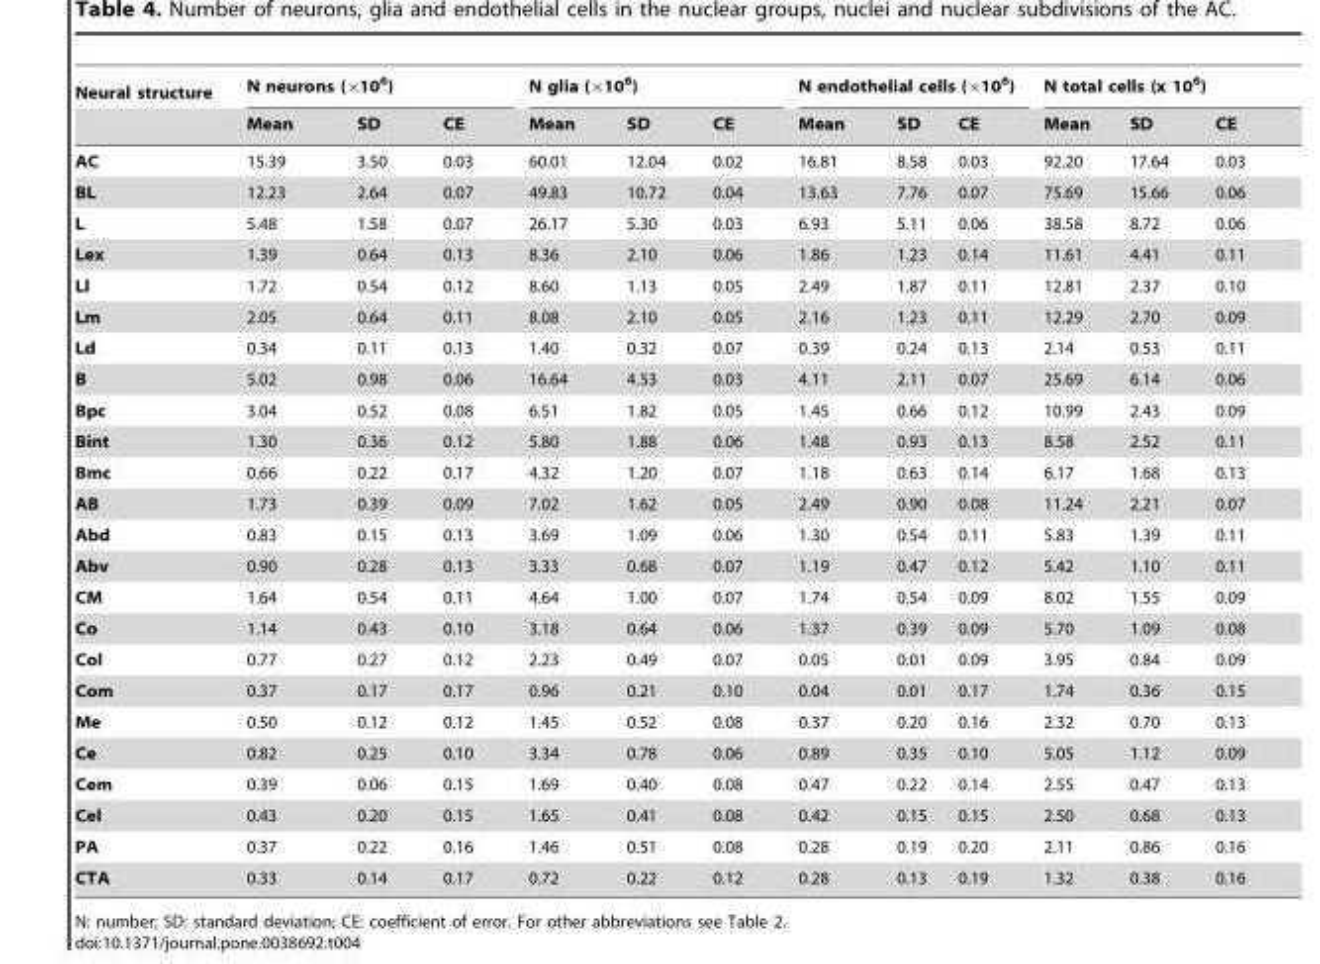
<table><thead><tr><td rowspan="2">Neural structure</td><td colspan="3">N neurons (×10<sup>6</sup>)</td><td colspan="3">N glia (×10<sup>6</sup>)</td><td colspan="3">N endothelial cells (×10<sup>6</sup>)</td><td colspan="3">N total cells (x 10<sup>6</sup>)</td></tr><tr><td>Mean</td><td>SD</td><td>CE</td><td>Mean</td><td>SD</td><td>CE</td><td>Mean</td><td>SD</td><td>CE</td><td>Mean</td><td>SD</td><td>CE</td></tr></thead><tbody><tr><td>AC</td><td>15.39</td><td>3.50</td><td>0.03</td><td>60.01</td><td>12.04</td><td>0.02</td><td>16.81</td><td>8.58</td><td>0.03</td><td>92.20</td><td>17.64</td><td>0.03</td></tr><tr><td>BL</td><td>12.23</td><td>2.64</td><td>0.07</td><td>49.83</td><td>10.72</td><td>0.04</td><td>13.63</td><td>7.76</td><td>0.07</td><td>75.69</td><td>15.66</td><td>0.06</td></tr><tr><td>L</td><td>5.48</td><td>1.58</td><td>0.07</td><td>26.17</td><td>5.30</td><td>0.03</td><td>6.93</td><td>5.11</td><td>0.06</td><td>38.58</td><td>8.72</td><td>0.06</td></tr><tr><td>Lex</td><td>1.39</td><td>0.64</td><td>0.13</td><td>8.36</td><td>2.10</td><td>0.06</td><td>1.86</td><td>1.23</td><td>0.14</td><td>11.61</td><td>4.41</td><td>0.11</td></tr><tr><td>Ll</td><td>1.72</td><td>0.54</td><td>0.12</td><td>8.60</td><td>1.13</td><td>0.05</td><td>2.49</td><td>1.87</td><td>0.11</td><td>12.81</td><td>2.37</td><td>0.10</td></tr><tr><td>Lm</td><td>2.05</td><td>0.64</td><td>0.11</td><td>8.08</td><td>2.10</td><td>0.05</td><td>2.16</td><td>1.23</td><td>0.11</td><td>12.29</td><td>2.70</td><td>0.09</td></tr><tr><td>Ld</td><td>0.34</td><td>0.11</td><td>0.13</td><td>1.40</td><td>0.32</td><td>0.07</td><td>0.39</td><td>0.24</td><td>0.13</td><td>2.14</td><td>0.53</td><td>0.11</td></tr><tr><td>B</td><td>5.02</td><td>0.98</td><td>0.06</td><td>16.64</td><td>4.53</td><td>0.03</td><td>4.11</td><td>2.11</td><td>0.07</td><td>25.69</td><td>6.14</td><td>0.06</td></tr><tr><td>Bpc</td><td>3.04</td><td>0.52</td><td>0.08</td><td>6.51</td><td>1.82</td><td>0.05</td><td>1.45</td><td>0.66</td><td>0.12</td><td>10.99</td><td>2.43</td><td>0.09</td></tr><tr><td>Bint</td><td>1.30</td><td>0.36</td><td>0.12</td><td>5.80</td><td>1.88</td><td>0.06</td><td>1.48</td><td>0.93</td><td>0.13</td><td>8.58</td><td>2.52</td><td>0.11</td></tr><tr><td>Bmc</td><td>0.66</td><td>0.22</td><td>0.17</td><td>4.32</td><td>1.20</td><td>0.07</td><td>1.18</td><td>0.63</td><td>0.14</td><td>6.17</td><td>1.68</td><td>0.13</td></tr><tr><td>AB</td><td>1.73</td><td>0.39</td><td>0.09</td><td>7.02</td><td>1.62</td><td>0.05</td><td>2.49</td><td>0.90</td><td>0.08</td><td>11.24</td><td>2.21</td><td>0.07</td></tr><tr><td>Abd</td><td>0.83</td><td>0.15</td><td>0.13</td><td>3.69</td><td>1.09</td><td>0.06</td><td>1.30</td><td>0.54</td><td>0.11</td><td>5.83</td><td>1.39</td><td>0.11</td></tr><tr><td>Abv</td><td>0.90</td><td>0.28</td><td>0.13</td><td>3.33</td><td>0.68</td><td>0.07</td><td>1.19</td><td>0.47</td><td>0.12</td><td>5.42</td><td>1.10</td><td>0.11</td></tr><tr><td>CM</td><td>1.64</td><td>0.54</td><td>0.11</td><td>4.64</td><td>1.00</td><td>0.07</td><td>1.74</td><td>0.54</td><td>0.09</td><td>8.02</td><td>1.55</td><td>0.09</td></tr><tr><td>Co</td><td>1.14</td><td>0.43</td><td>0.10</td><td>3.18</td><td>0.64</td><td>0.06</td><td>1.37</td><td>0.39</td><td>0.09</td><td>5.70</td><td>1.09</td><td>0.08</td></tr><tr><td>Col</td><td>0.77</td><td>0.27</td><td>0.12</td><td>2.23</td><td>0.49</td><td>0.07</td><td>0.05</td><td>0.01</td><td>0.09</td><td>3.95</td><td>0.84</td><td>0.09</td></tr><tr><td>Com</td><td>0.37</td><td>0.17</td><td>0.17</td><td>0.96</td><td>0.21</td><td>0.10</td><td>0.04</td><td>0.01</td><td>0.17</td><td>1.74</td><td>0.36</td><td>0.15</td></tr><tr><td>Me</td><td>0.50</td><td>0.12</td><td>0.12</td><td>1.45</td><td>0.52</td><td>0.08</td><td>0.37</td><td>0.20</td><td>0.16</td><td>2.32</td><td>0.70</td><td>0.13</td></tr><tr><td>Ce</td><td>0.82</td><td>0.25</td><td>0.10</td><td>3.34</td><td>0.78</td><td>0.06</td><td>0.89</td><td>0.35</td><td>0.10</td><td>5.05</td><td>1.12</td><td>0.09</td></tr><tr><td>Cem</td><td>0.39</td><td>0.06</td><td>0.15</td><td>1.69</td><td>0.40</td><td>0.08</td><td>0.47</td><td>0.22</td><td>0.14</td><td>2.55</td><td>0.47</td><td>0.13</td></tr><tr><td>Cel</td><td>0.43</td><td>0.20</td><td>0.15</td><td>1.65</td><td>0.41</td><td>0.08</td><td>0.42</td><td>0.15</td><td>0.15</td><td>2.50</td><td>0.68</td><td>0.13</td></tr><tr><td>PA</td><td>0.37</td><td>0.22</td><td>0.16</td><td>1.46</td><td>0.51</td><td>0.08</td><td>0.28</td><td>0.19</td><td>0.20</td><td>2.11</td><td>0.86</td><td>0.16</td></tr><tr><td>CTA</td><td>0.33</td><td>0.14</td><td>0.17</td><td>0.72</td><td>0.22</td><td>0.12</td><td>0.28</td><td>0.13</td><td>0.19</td><td>1.32</td><td>0.38</td><td>0.16</td></tr></tbody></table>